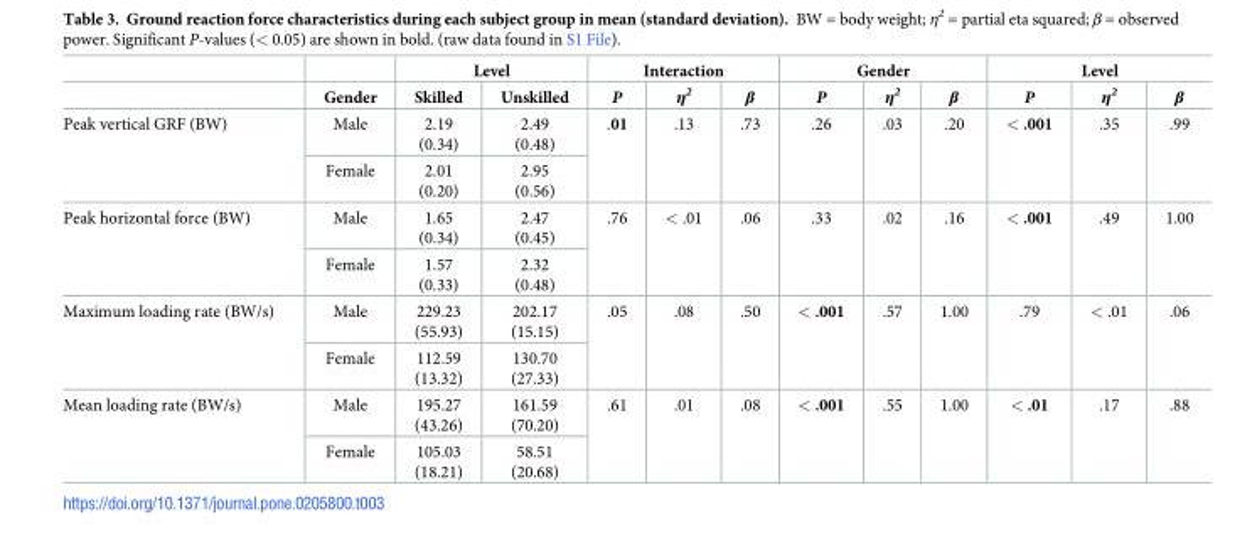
<table><thead><tr><td rowspan="2"></td><td rowspan="2">Gender</td><td colspan="2">Level</td><td colspan="3">Interaction</td><td colspan="3">Gender</td><td colspan="3">Level</td></tr><tr><td>Skilled</td><td>Unskilled</td><td>P</td><td>η<sup>2</sup></td><td>β</td><td>P</td><td>η<sup>2</sup></td><td>β</td><td>P</td><td>η<sup>2</sup></td><td>β</td></tr></thead><tbody><tr><td rowspan="2">Peak vertical GRF (BW)</td><td>Male</td><td>2.19 (0.34)</td><td>2.49 (0.48)</td><td rowspan="2">.01</td><td rowspan="2">.13</td><td rowspan="2">.73</td><td rowspan="2">.26</td><td rowspan="2">.03</td><td rowspan="2">.20</td><td rowspan="2">&lt; .001</td><td rowspan="2">.35</td><td rowspan="2">.99</td></tr><tr><td>Female</td><td>2.01 (0.20)</td><td>2.95 (0.56)</td></tr><tr><td rowspan="2">Peak horizontal force (BW)</td><td>Male</td><td>1.65 (0.34)</td><td>2.47 (0.45)</td><td rowspan="2">.76</td><td rowspan="2">&lt; .01</td><td rowspan="2">.06</td><td rowspan="2">.33</td><td rowspan="2">.02</td><td rowspan="2">.16</td><td rowspan="2">&lt; .001</td><td rowspan="2">.49</td><td rowspan="2">1.00</td></tr><tr><td>Female</td><td>1.57 (0.33)</td><td>2.32 (0.48)</td></tr><tr><td rowspan="2">Maximum loading rate (BW/s)</td><td>Male</td><td>229.23 (55.93)</td><td>202.17 (15.15)</td><td rowspan="2">.05</td><td rowspan="2">.08</td><td rowspan="2">.50</td><td rowspan="2">&lt; .001</td><td rowspan="2">.57</td><td rowspan="2">1.00</td><td rowspan="2">.79</td><td rowspan="2">&lt; .01</td><td rowspan="2">.06</td></tr><tr><td>Female</td><td>112.59 (13.32)</td><td>130.70 (27.33)</td></tr><tr><td rowspan="2">Mean loading rate (BW/s)</td><td>Male</td><td>195.27 (43.26)</td><td>161.59 (70.20)</td><td rowspan="2">.61</td><td rowspan="2">.01</td><td rowspan="2">.08</td><td rowspan="2">&lt; .001</td><td rowspan="2">.55</td><td rowspan="2">1.00</td><td rowspan="2">&lt; .01</td><td rowspan="2">.17</td><td rowspan="2">.88</td></tr><tr><td>Female</td><td>105.03 (18.21)</td><td>58.51 (20.68)</td></tr></tbody></table>